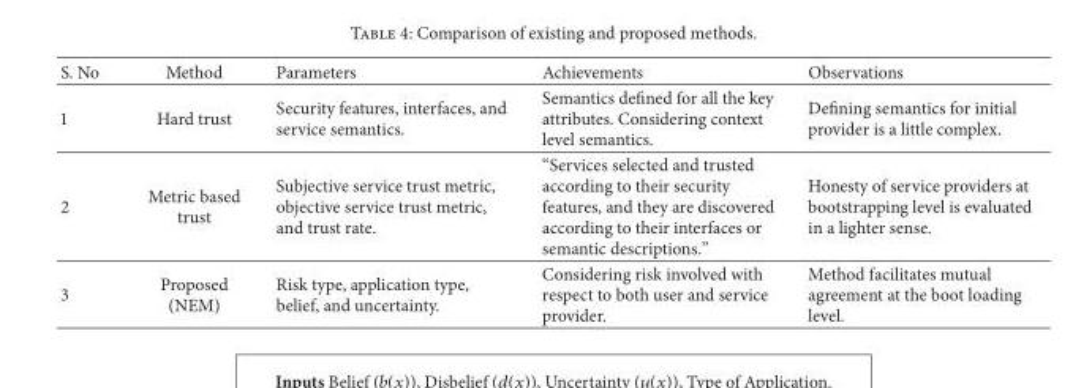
<table><thead><tr><td>S. No</td><td>Method</td><td>Parameters</td><td>Achievements</td><td>Observations</td></tr></thead><tbody><tr><td>1</td><td>Hard trust</td><td>Security features, interfaces, and service semantics.</td><td>Semantics defined for all the key attributes. Considering context level semantics.</td><td>Defining semantics for initial provider is a little complex.</td></tr><tr><td>2</td><td>Metric based trust</td><td>Subjective service trust metric, objective service trust metric, and trust rate.</td><td>“Services selected and trusted according to their security features, and they are discovered according to their interfaces or semantic descriptions.”</td><td>Honesty of service providers at bootstrapping level is evaluated in a lighter sense.</td></tr><tr><td>3</td><td>Proposed (NEM)</td><td>Risk type, application type, belief, and uncertainty.</td><td>Considering risk involved with respect to both user and service provider.</td><td>Method facilitates mutual agreement at the boot loading level.</td></tr></tbody></table>